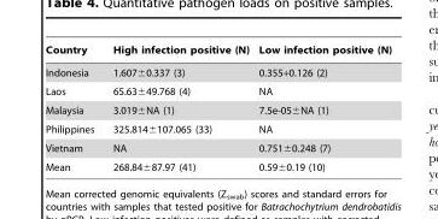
<table><thead><tr><td>Country</td><td>High infection positive (N)</td><td>Low infection positive (N)</td></tr></thead><tbody><tr><td>Indonesia</td><td>1.607±0.337 (3)</td><td>0.355+0.126 (2)</td></tr><tr><td>Laos</td><td>65.63±49.768 (4)</td><td>NA</td></tr><tr><td>Malaysia</td><td>3.019±NA (1)</td><td>7.5e-05±NA (1)</td></tr><tr><td>Philippines</td><td>325.814±107.065 (33)</td><td>NA</td></tr><tr><td>Vietnam</td><td>NA</td><td>0.751±0.248 (7)</td></tr><tr><td>Mean</td><td>268.84±87.97 (41)</td><td>0.59±0.19 (10)</td></tr></tbody></table>